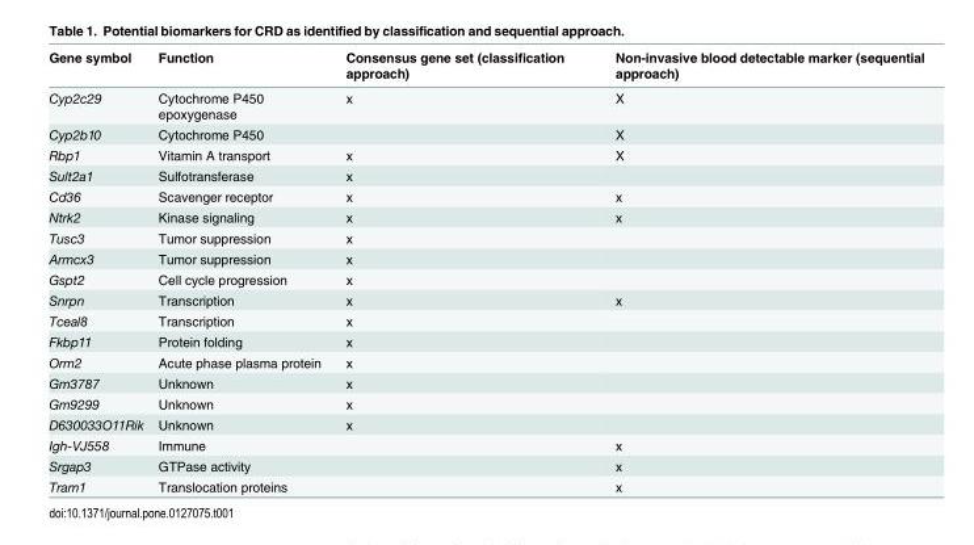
<table><thead><tr><td>Gene symbol</td><td>Function</td><td>Consensus gene set (classification approach)</td><td>Non-invasive blood detectable marker (sequential approach)</td></tr></thead><tbody><tr><td>Cyp2c29</td><td>Cytochrome P450 epoxygenase</td><td>x</td><td>X</td></tr><tr><td>Cyp2b10</td><td>Cytochrome P450</td><td></td><td>X</td></tr><tr><td>Rbp1</td><td>Vitamin A transport</td><td>x</td><td>X</td></tr><tr><td>Sult2a1</td><td>Sulfotransferase</td><td>x</td><td></td></tr><tr><td>Cd36</td><td>Scavenger receptor</td><td>x</td><td>x</td></tr><tr><td>Ntrk2</td><td>Kinase signaling</td><td>x</td><td>x</td></tr><tr><td>Tusc3</td><td>Tumor suppression</td><td>x</td><td></td></tr><tr><td>Armcx3</td><td>Tumor suppression</td><td>x</td><td></td></tr><tr><td>Gspt2</td><td>Cell cycle progression</td><td>x</td><td></td></tr><tr><td>Snrpn</td><td>Transcription</td><td>x</td><td>x</td></tr><tr><td>Tceal8</td><td>Transcription</td><td>x</td><td></td></tr><tr><td>Fkbp11</td><td>Protein folding</td><td>x</td><td></td></tr><tr><td>Orm2</td><td>Acute phase plasma protein</td><td>x</td><td></td></tr><tr><td>Gm3787</td><td>Unknown</td><td>x</td><td></td></tr><tr><td>Gm9299</td><td>Unknown</td><td>x</td><td></td></tr><tr><td>D630033O11Rik</td><td>Unknown</td><td>x</td><td></td></tr><tr><td>Igh-VJ558</td><td>Immune</td><td></td><td>x</td></tr><tr><td>Srgap3</td><td>GTPase activity</td><td></td><td>x</td></tr><tr><td>Tram1</td><td>Translocation proteins</td><td></td><td>x</td></tr></tbody></table>